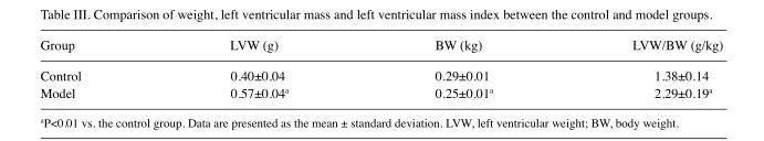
<table><thead><tr><td>Group</td><td>LVW (g)</td><td>BW (kg)</td><td>LVW/BW (g/kg)</td></tr></thead><tbody><tr><td>Control</td><td>0.40±0.04</td><td>0.29±0.01</td><td>1.38±0.14</td></tr><tr><td>Model</td><td>0.57±0.04<sup>a</sup></td><td>0.25±0.01<sup>a</sup></td><td>2.29±0.19<sup>a</sup></td></tr></tbody></table>